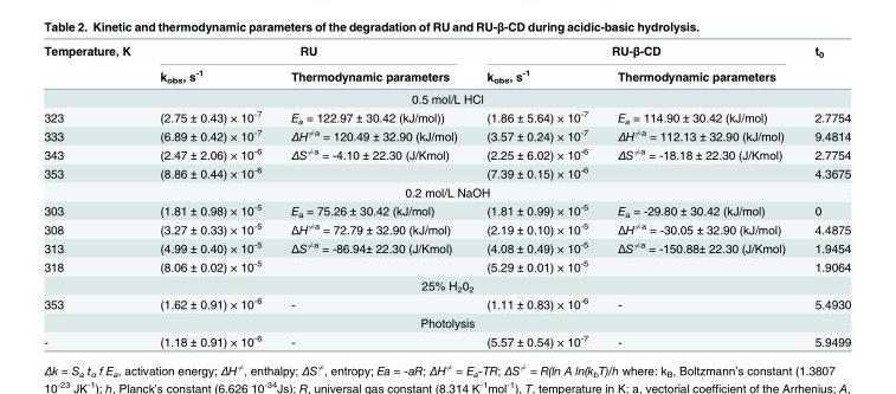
<table><thead><tr><td rowspan="2">Temperature, K</td><td colspan="2">RU</td><td colspan="2">RU-β-CD</td><td rowspan="2">t<sub>0</sub></td></tr><tr><td>k<sub>obs</sub>, s<sup>-1</sup></td><td>Thermodynamic parameters</td><td>k<sub>obs</sub>, s<sup>-1</sup></td><td>Thermodynamic parameters</td></tr></thead><tbody><tr><td colspan="6">0.5 mol/L HCl</td></tr><tr><td>323</td><td>(2.75 ± 0.43) × 10<sup>-7</sup></td><td>E<sub>a</sub> = 122.97 ± 30.42 (kJ/mol))</td><td>(1.86 ± 5.64) × 10<sup>-7</sup></td><td>E<sub>a</sub> = 114.90 ± 30.42 (kJ/mol)</td><td>2.7754</td></tr><tr><td>333</td><td>(6.89 ± 0.42) × 10<sup>-7</sup></td><td>ΔH6¼a = 120.49 ± 32.90 (kJ/mol)</td><td>(3.57 ± 0.24) × 10<sup>-7</sup></td><td>ΔH6¼a = 112.13 ± 32.90 (kJ/mol)</td><td>9.4814</td></tr><tr><td>343</td><td>(2.47 ± 2.06) × 10<sup>-6</sup></td><td>ΔS6¼a = -4.10 ± 22.30 (J/Kmol)</td><td>(2.25 ± 6.02) × 10<sup>-6</sup></td><td>ΔS6¼a = -18.18 ± 22.30 (J/Kmol)</td><td>2.7754</td></tr><tr><td>353</td><td>(8.86 ± 0.44) × 10<sup>-6</sup></td><td></td><td>(7.39 ± 0.15) × 10<sup>-6</sup></td><td></td><td>4.3675</td></tr><tr><td colspan="6">0.2 mol/L NaOH</td></tr><tr><td>303</td><td>(1.81 ± 0.98) × 10<sup>-5</sup></td><td>E<sub>a</sub> = 75.26 ± 30.42 (kJ/mol)</td><td>(1.81 ± 0.99) × 10<sup>-5</sup></td><td>E<sub>a</sub> = -29.80 ± 30.42 (kJ/mol)</td><td>0</td></tr><tr><td>308</td><td>(3.27 ± 0.33) × 10<sup>-5</sup></td><td>ΔH6¼a = 72.79 ± 32.90 (kJ/mol)</td><td>(2.19 ± 0.10) × 10<sup>-5</sup></td><td>ΔH6¼a = -30.05 ± 32.90 (kJ/mol)</td><td>4.4875</td></tr><tr><td>313</td><td>(4.99 ± 0.40) × 10<sup>-5</sup></td><td>ΔS6¼a = -86.94± 22.30 (J/Kmol)</td><td>(4.08 ± 0.49) × 10<sup>-5</sup></td><td>ΔS6¼a = -150.88± 22.30 (J/Kmol)</td><td>1.9454</td></tr><tr><td>318</td><td>(8.06 ± 0.02) × 10<sup>-5</sup></td><td></td><td>(5.29 ± 0.01) × 10<sup>-5</sup></td><td></td><td>1.9064</td></tr><tr><td colspan="6">25% H<sub>2</sub>0<sub>2</sub></td></tr><tr><td>353</td><td>(1.62 ± 0.91) × 10<sup>-6</sup></td><td>-</td><td>(1.11 ± 0.83) × 10<sup>-6</sup></td><td>-</td><td>5.4930</td></tr><tr><td colspan="6">Photolysis</td></tr><tr><td>-</td><td>(1.18 ± 0.91) × 10<sup>-6</sup></td><td>-</td><td>(5.57 ± 0.54) × 10<sup>-7</sup></td><td>-</td><td>5.9499</td></tr></tbody></table>